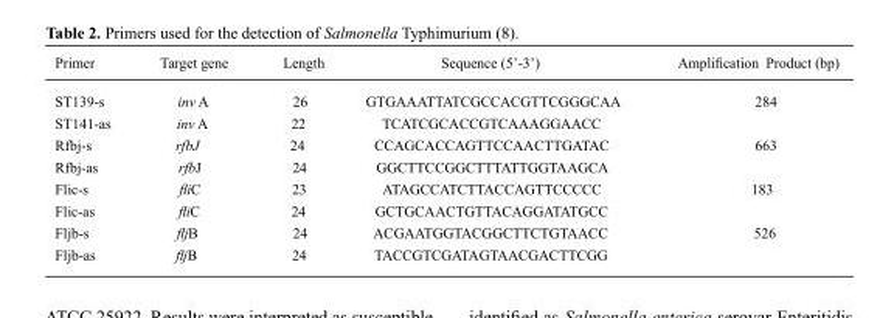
<table><thead><tr><td>Primer</td><td>Target gene</td><td>Length</td><td>Sequence (5’-3’)</td><td>Amplification Product (bp)</td></tr></thead><tbody><tr><td>ST139-s</td><td>inv A</td><td>26</td><td>GTGAAATTATCGCCACGTTCGGGCAA</td><td>284</td></tr><tr><td>ST141-as</td><td>inv A</td><td>22</td><td>TCATCGCACCGTCAAAGGAACC</td><td></td></tr><tr><td>Rfbj-s</td><td>rfbJ</td><td>24</td><td>CCAGCACCAGTTCCAACTTGATAC</td><td>663</td></tr><tr><td>Rfbj-as</td><td>rfbJ</td><td>24</td><td>GGCTTCCGGCTTTATTGGTAAGCA</td><td></td></tr><tr><td>Flic-s</td><td>fliC</td><td>23</td><td>ATAGCCATCTTACCAGTTCCCCC</td><td>183</td></tr><tr><td>Flic-as</td><td>fliC</td><td>24</td><td>GCTGCAACTGTTACAGGATATGCC</td><td></td></tr><tr><td>Fljb-s</td><td>fljB</td><td>24</td><td>ACGAATGGTACGGCTTCTGTAACC</td><td>526</td></tr><tr><td>Fljb-as</td><td>fljB</td><td>24</td><td>TACCGTCGATAGTAACGACTTCGG</td><td></td></tr></tbody></table>